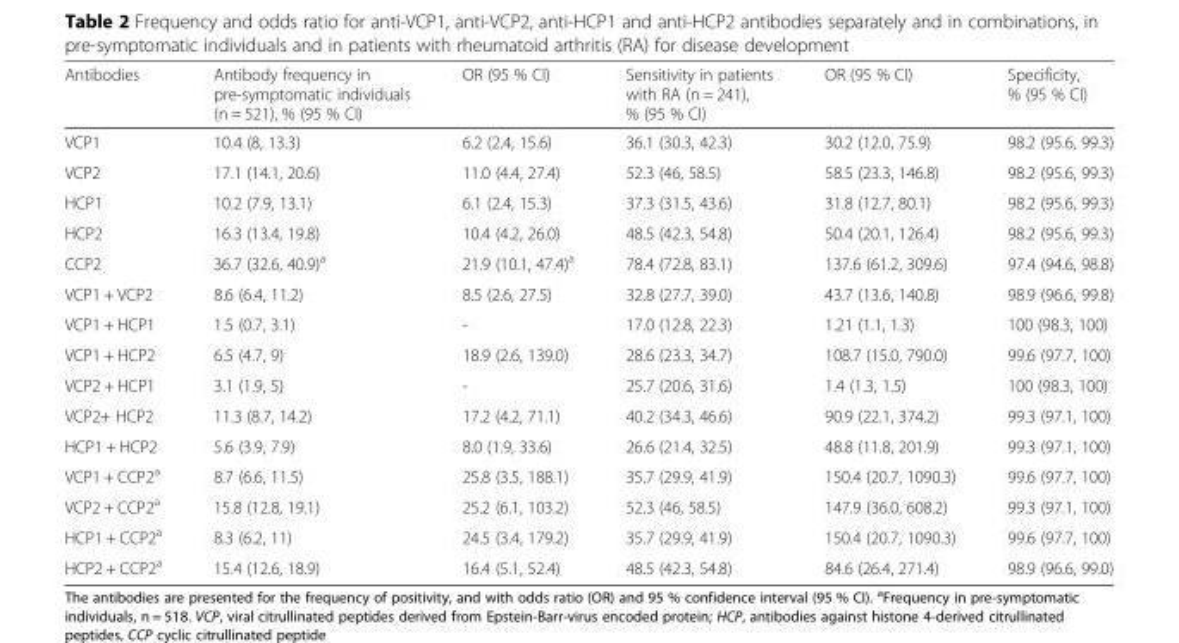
<table><thead><tr><td>Antibodies</td><td>Antibody frequency in pre-symptomatic individuals (n = 521), % (95 % CI)</td><td>OR (95 % CI)</td><td>Sensitivity in patients with RA (n = 241), % (95 % CI)</td><td>OR (95 % CI)</td><td>Specificity, % (95 % CI)</td></tr></thead><tbody><tr><td>VCP1</td><td>10.4 (8, 13.3)</td><td>6.2 (2.4, 15.6)</td><td>36.1 (30.3, 42.3)</td><td>30.2 (12.0, 75.9)</td><td>98.2 (95.6, 99.3)</td></tr><tr><td>VCP2</td><td>17.1 (14.1, 20.6)</td><td>11.0 (4.4, 27.4)</td><td>52.3 (46, 58.5)</td><td>58.5 (23.3, 146.8)</td><td>98.2 (95.6, 99.3)</td></tr><tr><td>HCP1</td><td>10.2 (7.9, 13.1)</td><td>6.1 (2.4, 15.3)</td><td>37.3 (31.5, 43.6)</td><td>31.8 (12.7, 80.1)</td><td>98.2 (95.6, 99.3)</td></tr><tr><td>HCP2</td><td>16.3 (13.4, 19.8)</td><td>10.4 (4.2, 26.0)</td><td>48.5 (42.3, 54.8)</td><td>50.4 (20.1, 126.4)</td><td>98.2 (95.6, 99.3)</td></tr><tr><td>CCP2</td><td>36.7 (32.6, 40.9)<sup>a</sup></td><td>21.9 (10.1, 47.4)<sup>a</sup></td><td>78.4 (72.8, 83.1)</td><td>137.6 (61.2, 309.6)</td><td>97.4 (94.6, 98.8)</td></tr><tr><td>VCP1 + VCP2</td><td>8.6 (6.4, 11.2)</td><td>8.5 (2.6, 27.5)</td><td>32.8 (27.7, 39.0)</td><td>43.7 (13.6, 140.8)</td><td>98.9 (96.6, 99.8)</td></tr><tr><td>VCP1 + HCP1</td><td>1.5 (0.7, 3.1)</td><td>-</td><td>17.0 (12.8, 22.3)</td><td>1.21 (1.1, 1.3)</td><td>100 (98.3, 100)</td></tr><tr><td>VCP1 + HCP2</td><td>6.5 (4.7, 9)</td><td>18.9 (2.6, 139.0)</td><td>28.6 (23.3, 34.7)</td><td>108.7 (15.0, 790.0)</td><td>99.6 (97.7, 100)</td></tr><tr><td>VCP2 + HCP1</td><td>3.1 (1.9, 5)</td><td>-</td><td>25.7 (20.6, 31.6)</td><td>1.4 (1.3, 1.5)</td><td>100 (98.3, 100)</td></tr><tr><td>VCP2+ HCP2</td><td>11.3 (8.7, 14.2)</td><td>17.2 (4.2, 71.1)</td><td>40.2 (34.3, 46.6)</td><td>90.9 (22.1, 374.2)</td><td>99.3 (97.1, 100)</td></tr><tr><td>HCP1 + HCP2</td><td>5.6 (3.9, 7.9)</td><td>8.0 (1.9, 33.6)</td><td>26.6 (21.4, 32.5)</td><td>48.8 (11.8, 201.9)</td><td>99.3 (97.1, 100)</td></tr><tr><td>VCP1 + CCP2<sup>a</sup></td><td>8.7 (6.6, 11.5)</td><td>25.8 (3.5, 188.1)</td><td>35.7 (29.9, 41.9)</td><td>150.4 (20.7, 1090.3)</td><td>99.6 (97.7, 100)</td></tr><tr><td>VCP2 + CCP2<sup>a</sup></td><td>15.8 (12.8, 19.1)</td><td>25.2 (6.1, 103.2)</td><td>52.3 (46, 58.5)</td><td>147.9 (36.0, 608.2)</td><td>99.3 (97.1, 100)</td></tr><tr><td>HCP1 + CCP2<sup>a</sup></td><td>8.3 (6.2, 11)</td><td>24.5 (3.4, 179.2)</td><td>35.7 (29.9, 41.9)</td><td>150.4 (20.7, 1090.3)</td><td>99.6 (97.7, 100)</td></tr><tr><td>HCP2 + CCP2<sup>a</sup></td><td>15.4 (12.6, 18.9)</td><td>16.4 (5.1, 52.4)</td><td>48.5 (42.3, 54.8)</td><td>84.6 (26.4, 271.4)</td><td>98.9 (96.6, 99.0)</td></tr></tbody></table>